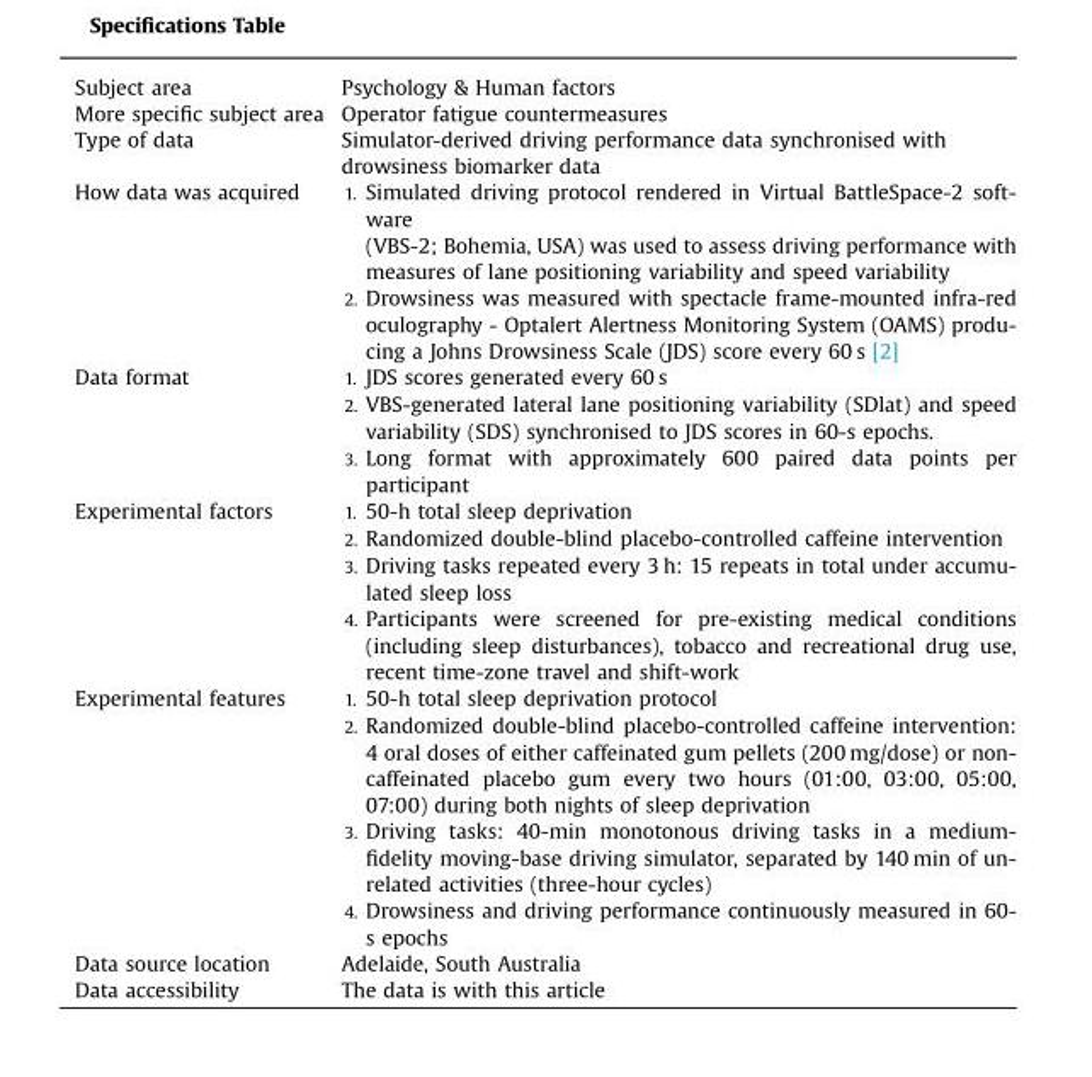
<table><tbody><tr><td>Subject area</td><td>Psychology &amp; Human factors</td></tr><tr><td>More specific subject area</td><td>Operator fatigue countermeasures</td></tr><tr><td>Type of data</td><td>Simulator-derived driving performance data synchronised with drowsiness biomarker data</td></tr><tr><td>How data was acquired</td><td>1. Simulated driving protocol rendered in Virtual BattleSpace-2 soft- ware (VBS-2; Bohemia, USA) was used to assess driving performance with measures of lane positioning variability and speed variability 2. Drowsiness was measured with spectacle frame-mounted infra-red oculography - Optalert Alertness Monitoring System (OAMS) produ- cing a Johns Drowsiness Scale (JDS) score every 60 s [2]</td></tr><tr><td>Data format</td><td>1. JDS scores generated every 60 s 2. VBS-generated lateral lane positioning variability (SDlat) and speed variability (SDS) synchronised to JDS scores in 60-s epochs. 3. Long format with approximately 600 paired data points per participant</td></tr><tr><td>Experimental factors</td><td>1. 50-h total sleep deprivation 2. Randomized double-blind placebo-controlled caffeine intervention 3. Driving tasks repeated every 3 h: 15 repeats in total under accumu- lated sleep loss 4. Participants were screened for pre-existing medical conditions (including sleep disturbances), tobacco and recreational drug use, recent time-zone travel and shift-work</td></tr><tr><td>Experimental features</td><td>1. 50-h total sleep deprivation protocol 2. Randomized double-blind placebo-controlled caffeine intervention: 4 oral doses of either caffeinated gum pellets (200 mg/dose) or non- caffeinated placebo gum every two hours (01:00, 03:00, 05:00, 07:00) during both nights of sleep deprivation 3. Driving tasks: 40-min monotonous driving tasks in a medium- fidelity moving-base driving simulator, separated by 140 min of un- related activities (three-hour cycles) 4. Drowsiness and driving performance continuously measured in 60- s epochs</td></tr><tr><td>Data source location</td><td>Adelaide, South Australia</td></tr><tr><td>Data accessibility</td><td>The data is with this article</td></tr></tbody></table>